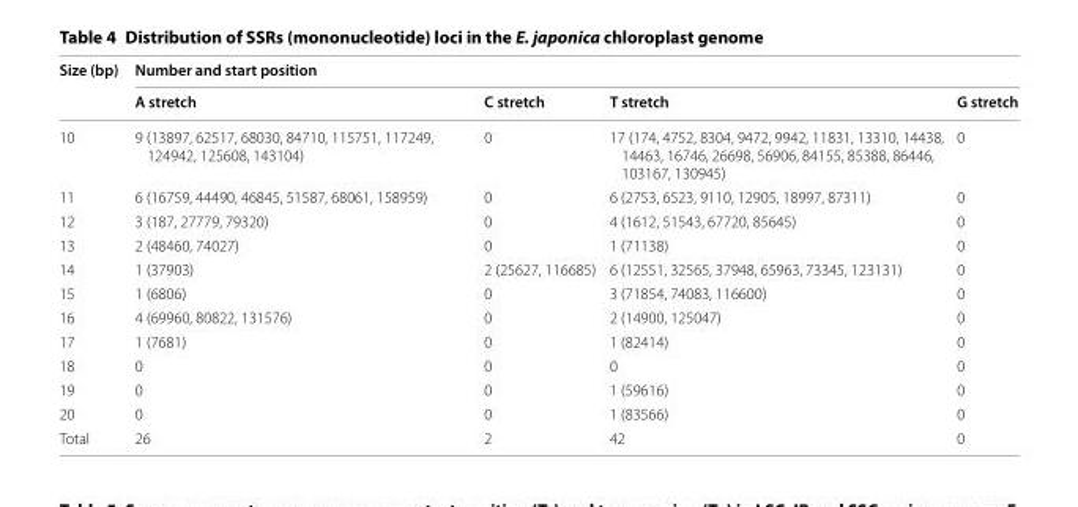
<table><thead><tr><td rowspan="2">Size (bp)</td><td colspan="4">Number and start position</td></tr><tr><td>A stretch</td><td>C stretch</td><td>T stretch</td><td>G stretch</td></tr></thead><tbody><tr><td>10</td><td>9 (13897, 62517, 68030, 84710, 115751, 117249, 124942, 125608, 143104)</td><td>0</td><td>17 (174, 4752, 8304, 9472, 9942, 11831, 13310, 14438, 14463, 16746, 26698, 56906, 84155, 85388, 86446, 103167, 130945)</td><td>0</td></tr><tr><td>11</td><td>6 (16759, 44490, 46845, 51587, 68061, 158959)</td><td>0</td><td>6 (2753, 6523, 9110, 12905, 18997, 87311)</td><td>0</td></tr><tr><td>12</td><td>3 (187, 27779, 79320)</td><td>0</td><td>4 (1612, 51543, 67720, 85645)</td><td>0</td></tr><tr><td>13</td><td>2 (48460, 74027)</td><td>0</td><td>1 (71138)</td><td>0</td></tr><tr><td>14</td><td>1 (37903)</td><td>2 (25627, 116685)</td><td>6 (12551, 32565, 37948, 65963, 73345, 123131)</td><td>0</td></tr><tr><td>15</td><td>1 (6806)</td><td>0</td><td>3 (71854, 74083, 116600)</td><td>0</td></tr><tr><td>16</td><td>4 (69960, 80822, 131576)</td><td>0</td><td>2 (14900, 125047)</td><td>0</td></tr><tr><td>17</td><td>1 (7681)</td><td>0</td><td>1 (82414)</td><td>0</td></tr><tr><td>18</td><td>0</td><td>0</td><td>0</td><td>0</td></tr><tr><td>19</td><td>0</td><td>0</td><td>1 (59616)</td><td>0</td></tr><tr><td>20</td><td>0</td><td>0</td><td>1 (83566)</td><td>0</td></tr><tr><td>Total</td><td>26</td><td>2</td><td>42</td><td>0</td></tr></tbody></table>